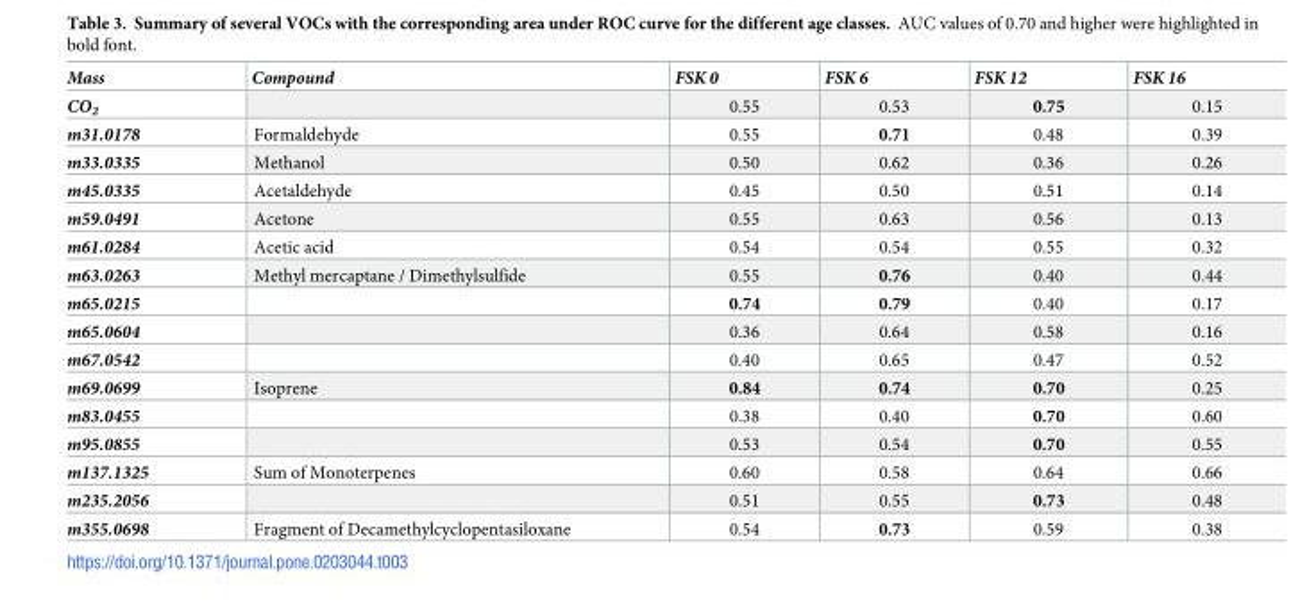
<table><thead><tr><td>Mass</td><td>Compound</td><td>FSK 0</td><td>FSK 6</td><td>FSK 12</td><td>FSK 16</td></tr></thead><tbody><tr><td>CO<sub>2</sub></td><td></td><td>0.55</td><td>0.53</td><td>0.75</td><td>0.15</td></tr><tr><td>m31.0178</td><td>Formaldehyde</td><td>0.55</td><td>0.71</td><td>0.48</td><td>0.39</td></tr><tr><td>m33.0335</td><td>Methanol</td><td>0.50</td><td>0.62</td><td>0.36</td><td>0.26</td></tr><tr><td>m45.0335</td><td>Acetaldehyde</td><td>0.45</td><td>0.50</td><td>0.51</td><td>0.14</td></tr><tr><td>m59.0491</td><td>Acetone</td><td>0.55</td><td>0.63</td><td>0.56</td><td>0.13</td></tr><tr><td>m61.0284</td><td>Acetic acid</td><td>0.54</td><td>0.54</td><td>0.55</td><td>0.32</td></tr><tr><td>m63.0263</td><td>Methyl mercaptane / Dimethylsulfide</td><td>0.55</td><td>0.76</td><td>0.40</td><td>0.44</td></tr><tr><td>m65.0215</td><td></td><td>0.74</td><td>0.79</td><td>0.40</td><td>0.17</td></tr><tr><td>m65.0604</td><td></td><td>0.36</td><td>0.64</td><td>0.58</td><td>0.16</td></tr><tr><td>m67.0542</td><td></td><td>0.40</td><td>0.65</td><td>0.47</td><td>0.52</td></tr><tr><td>m69.0699</td><td>Isoprene</td><td>0.84</td><td>0.74</td><td>0.70</td><td>0.25</td></tr><tr><td>m83.0455</td><td></td><td>0.38</td><td>0.40</td><td>0.70</td><td>0.60</td></tr><tr><td>m95.0855</td><td></td><td>0.53</td><td>0.54</td><td>0.70</td><td>0.55</td></tr><tr><td>m137.1325</td><td>Sum of Monoterpenes</td><td>0.60</td><td>0.58</td><td>0.64</td><td>0.66</td></tr><tr><td>m235.2056</td><td></td><td>0.51</td><td>0.55</td><td>0.73</td><td>0.48</td></tr><tr><td>m355.0698</td><td>Fragment of Decamethylcyclopentasiloxane</td><td>0.54</td><td>0.73</td><td>0.59</td><td>0.38</td></tr></tbody></table>